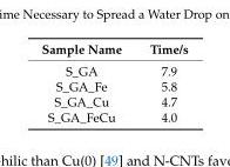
<table><thead><tr><td>Sample Name</td><td>Time/s</td></tr></thead><tbody><tr><td>S_GA</td><td>7.9</td></tr><tr><td>S_GA_Fe</td><td>5.8</td></tr><tr><td>S_GA_Cu</td><td>4.7</td></tr><tr><td>S_GA_FeCu</td><td>4.0</td></tr></tbody></table>